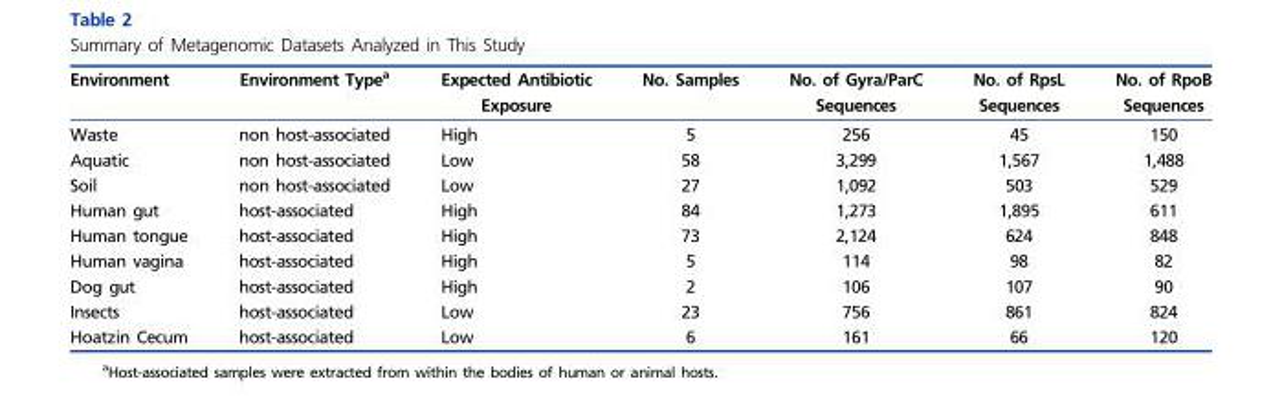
<table><thead><tr><td>Environment</td><td>Environment Type<sup>a</sup></td><td>Expected Antibiotic Exposure</td><td>No. Samples</td><td>No. of Gyra/ParC Sequences</td><td>No. of RpsL Sequences</td><td>No. of RpoB Sequences</td></tr></thead><tbody><tr><td>Waste</td><td>non host-associated</td><td>High</td><td>5</td><td>256</td><td>45</td><td>150</td></tr><tr><td>Aquatic</td><td>non host-associated</td><td>Low</td><td>58</td><td>3,299</td><td>1,567</td><td>1,488</td></tr><tr><td>Soil</td><td>non host-associated</td><td>Low</td><td>27</td><td>1,092</td><td>503</td><td>529</td></tr><tr><td>Human gut</td><td>host-associated</td><td>High</td><td>84</td><td>1,273</td><td>1,895</td><td>611</td></tr><tr><td>Human tongue</td><td>host-associated</td><td>High</td><td>73</td><td>2,124</td><td>624</td><td>848</td></tr><tr><td>Human vagina</td><td>host-associated</td><td>High</td><td>5</td><td>114</td><td>98</td><td>82</td></tr><tr><td>Dog gut</td><td>host-associated</td><td>High</td><td>2</td><td>106</td><td>107</td><td>90</td></tr><tr><td>Insects</td><td>host-associated</td><td>Low</td><td>23</td><td>756</td><td>861</td><td>824</td></tr><tr><td>Hoatzin Cecum</td><td>host-associated</td><td>Low</td><td>6</td><td>161</td><td>66</td><td>120</td></tr></tbody></table>